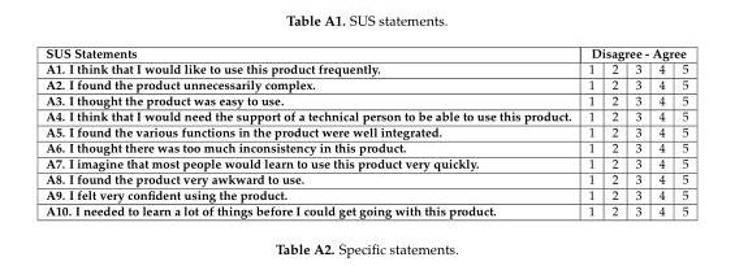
<table><thead><tr><td rowspan="2">SUS Statements A1. I think that I would like to use this product frequently.</td><td colspan="5">Disagree - Agree</td></tr><tr><td>1</td><td>2</td><td>3</td><td>4</td><td>5</td></tr></thead><tbody><tr><td>A2. I found the product unnecessarily complex.</td><td>1</td><td>2</td><td>3</td><td>4</td><td>5</td></tr><tr><td>A3. I thought the product was easy to use.</td><td>1</td><td>2</td><td>3</td><td>4</td><td>5</td></tr><tr><td>A4. I think that I would need the support of a technical person to be able to use this product.</td><td>1</td><td>2</td><td>3</td><td>4</td><td>5</td></tr><tr><td>A5. I found the various functions in the product were well integrated.</td><td>1</td><td>2</td><td>3</td><td>4</td><td>5</td></tr><tr><td>A6. I thought there was too much inconsistency in this product.</td><td>1</td><td>2</td><td>3</td><td>4</td><td>5</td></tr><tr><td>A7. I imagine that most people would learn to use this product very quickly.</td><td>1</td><td>2</td><td>3</td><td>4</td><td>5</td></tr><tr><td>A8. I found the product very awkward to use.</td><td>1</td><td>2</td><td>3</td><td>4</td><td>5</td></tr><tr><td>A9. I felt very confident using the product.</td><td>1</td><td>2</td><td>3</td><td>4</td><td>5</td></tr><tr><td>A10. I needed to learn a lot of things before I could get going with this product.</td><td>1</td><td>2</td><td>3</td><td>4</td><td>5</td></tr></tbody></table>